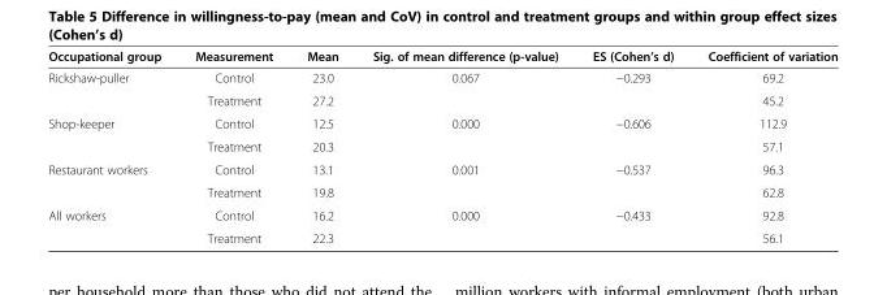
<table><thead><tr><td>Occupational group</td><td>Measurement</td><td>Mean</td><td>Sig. of mean difference (p-value)</td><td>ES (Cohen’s d)</td><td>Coefficient of variation</td></tr></thead><tbody><tr><td rowspan="2">Rickshaw-puller</td><td>Control</td><td>23.0</td><td rowspan="2">0.067</td><td rowspan="2">−0.293</td><td>69.2</td></tr><tr><td>Treatment</td><td>27.2</td><td>45.2</td></tr><tr><td rowspan="2">Shop-keeper</td><td>Control</td><td>12.5</td><td rowspan="2">0.000</td><td rowspan="2">−0.606</td><td>112.9</td></tr><tr><td>Treatment</td><td>20.3</td><td>57.1</td></tr><tr><td rowspan="2">Restaurant workers</td><td>Control</td><td>13.1</td><td rowspan="2">0.001</td><td rowspan="2">−0.537</td><td>96.3</td></tr><tr><td>Treatment</td><td>19.8</td><td>62.8</td></tr><tr><td rowspan="2">All workers</td><td>Control</td><td>16.2</td><td>0.000</td><td>−0.433</td><td>92.8</td></tr><tr><td>Treatment</td><td>22.3</td><td></td><td></td><td>56.1</td></tr></tbody></table>